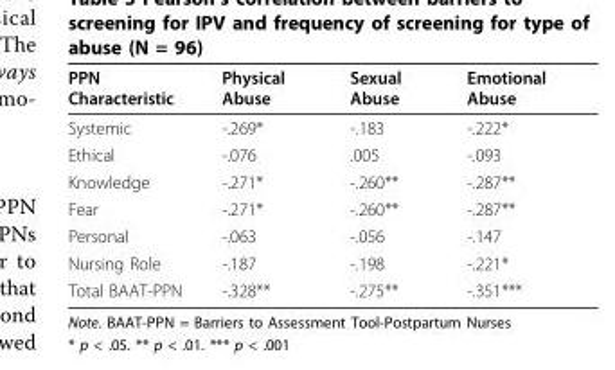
<table><thead><tr><td>PPN Characteristic</td><td>Physical Abuse</td><td>Sexual Abuse</td><td>Emotional Abuse</td></tr></thead><tbody><tr><td>Systemic</td><td>-.269*</td><td>-.183</td><td>-.222*</td></tr><tr><td>Ethical</td><td>-.076</td><td>.005</td><td>-.093</td></tr><tr><td>Knowledge</td><td>-.271*</td><td>-.260**</td><td>-.287**</td></tr><tr><td>Fear</td><td>-.271*</td><td>-.260**</td><td>-.287**</td></tr><tr><td>Personal</td><td>-.063</td><td>-.056</td><td>-.147</td></tr><tr><td>Nursing Role</td><td>-.187</td><td>-.198</td><td>-.221*</td></tr><tr><td>Total BAAT-PPN</td><td>-.328**</td><td>-.275**</td><td>-.351***</td></tr></tbody></table>